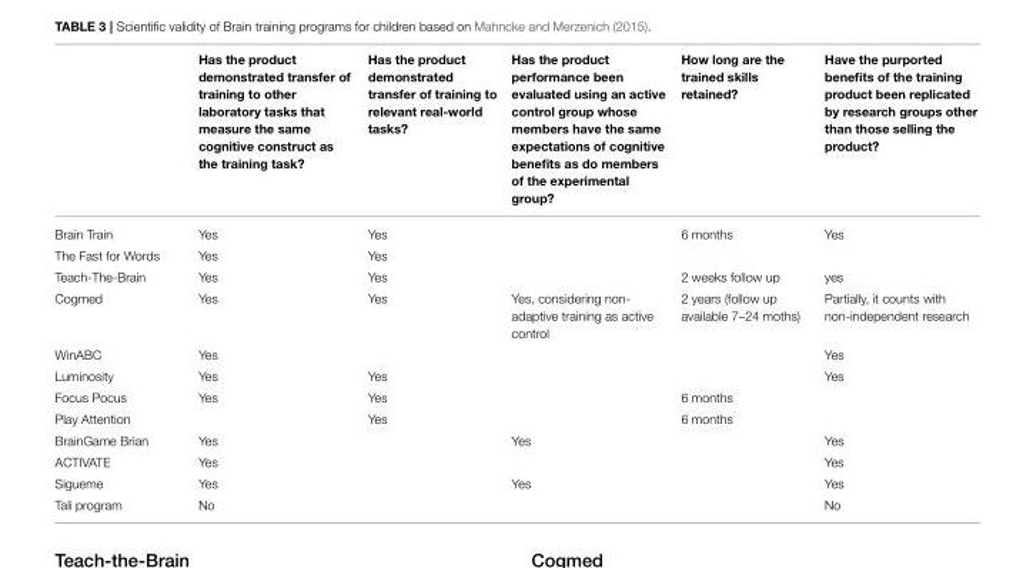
<table><thead><tr><td></td><td>Has the product demonstrated transfer of training to other laboratory tasks that measure the same cognitive construct as the training task?</td><td>Has the product demonstrated transfer of training to relevant real-world tasks?</td><td>Has the product performance been evaluated using an active control group whose members have the same expectations of cognitive benefits as do members of the experimental group?</td><td>How long are the trained skills retained?</td><td>Have the purported benefits of the training product been replicated by research groups other than those selling the product?</td></tr></thead><tbody><tr><td>Brain Train</td><td>Yes</td><td>Yes</td><td></td><td>6 months</td><td>Yes</td></tr><tr><td>The Fast for Words</td><td>Yes</td><td>Yes</td><td></td><td></td><td></td></tr><tr><td>Teach-The-Brain</td><td>Yes</td><td>Yes</td><td></td><td>2 weeks follow up</td><td>yes</td></tr><tr><td>Cogmed</td><td>Yes</td><td>Yes</td><td>Yes, considering non- adaptive training as active control</td><td>2 years (follow up available 7–24 moths)</td><td>Partially, it counts with non-independent research</td></tr><tr><td>WinABC</td><td>Yes</td><td></td><td></td><td></td><td>Yes</td></tr><tr><td>Luminosity</td><td>Yes</td><td>Yes</td><td></td><td></td><td>Yes</td></tr><tr><td>Focus Pocus</td><td>Yes</td><td>Yes</td><td></td><td>6 months</td><td></td></tr><tr><td>Play Attention</td><td></td><td>Yes</td><td></td><td>6 months</td><td></td></tr><tr><td>BrainGame Brian</td><td>Yes</td><td></td><td>Yes</td><td></td><td>Yes</td></tr><tr><td>ACTIVATE</td><td>Yes</td><td></td><td></td><td></td><td>Yes</td></tr><tr><td>Sigueme</td><td>Yes</td><td></td><td>Yes</td><td></td><td>Yes</td></tr><tr><td>Tali program</td><td>No</td><td></td><td></td><td></td><td>No</td></tr></tbody></table>